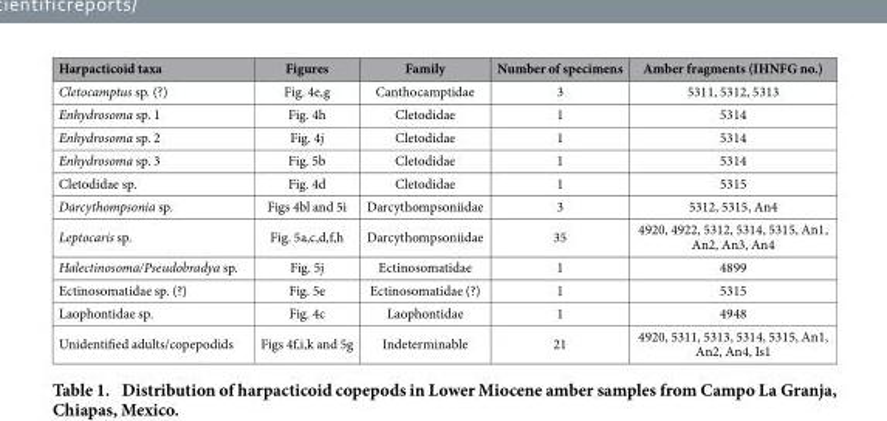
<table><thead><tr><td>Harpacticoid taxa</td><td>Figures</td><td>Family</td><td>Number of specimens</td><td>Amber fragments (IHNFG no.)</td></tr></thead><tbody><tr><td>Cletocamptus sp. (?)</td><td>Fig. 4e,g</td><td>Canthocamptidae</td><td>3</td><td>5311, 5312, 5313</td></tr><tr><td>Enhydrosoma sp. 1</td><td>Fig. 4h</td><td>Cletodidae</td><td>1</td><td>5314</td></tr><tr><td>Enhydrosoma sp. 2</td><td>Fig. 4j</td><td>Cletodidae</td><td>1</td><td>5314</td></tr><tr><td>Enhydrosoma sp. 3</td><td>Fig. 5b</td><td>Cletodidae</td><td>1</td><td>5314</td></tr><tr><td>Cletodidae sp.</td><td>Fig. 4d</td><td>Cletodidae</td><td>1</td><td>5315</td></tr><tr><td>Darcythompsonia sp.</td><td>Figs 4bl and 5i</td><td>Darcythompsoniidae</td><td>3</td><td>5312, 5315, An4</td></tr><tr><td>Leptocaris sp.</td><td>Fig. 5a,c,d,f,h</td><td>Darcythompsoniidae</td><td>35</td><td>4920, 4922, 5312, 5314, 5315, An1, An2, An3, An4</td></tr><tr><td>Halectinosoma/Pseudobradya sp.</td><td>Fig. 5j</td><td>Ectinosomatidae</td><td>1</td><td>4899</td></tr><tr><td>Ectinosomatidae sp. (?)</td><td>Fig. 5e</td><td>Ectinosomatidae (?)</td><td>1</td><td>5315</td></tr><tr><td>Laophontidae sp.</td><td>Fig. 4c</td><td>Laophontidae</td><td>1</td><td>4948</td></tr><tr><td>Unidentified adults/copepodids</td><td>Figs 4f,i,k and 5g</td><td>Indeterminable</td><td>21</td><td>4920, 5311, 5313, 5314, 5315, An1, An2, An4, Is1</td></tr></tbody></table>